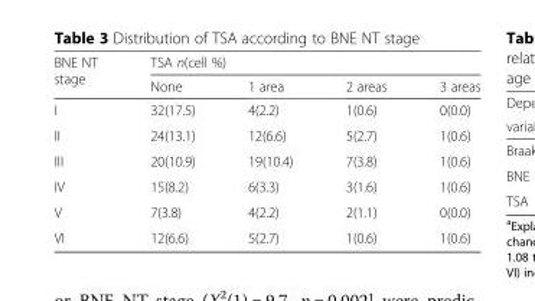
<table><thead><tr><td rowspan="2">BNE NT stage</td><td colspan="4">TSA n(cell %)</td></tr><tr><td>None</td><td>1 area</td><td>2 areas</td><td>3 areas</td></tr></thead><tbody><tr><td>I</td><td>32(17.5)</td><td>4(2.2)</td><td>1(0.6)</td><td>0(0.0)</td></tr><tr><td>II</td><td>24(13.1)</td><td>12(6.6)</td><td>5(2.7)</td><td>1(0.6)</td></tr><tr><td>III</td><td>20(10.9)</td><td>19(10.4)</td><td>7(3.8)</td><td>1(0.6)</td></tr><tr><td>IV</td><td>15(8.2)</td><td>6(3.3)</td><td>3(1.6)</td><td>1(0.6)</td></tr><tr><td>V</td><td>7(3.8)</td><td>4(2.2)</td><td>2(1.1)</td><td>0(0.0)</td></tr><tr><td>VI</td><td>12(6.6)</td><td>5(2.7)</td><td>1(0.6)</td><td>1(0.6)</td></tr></tbody></table>